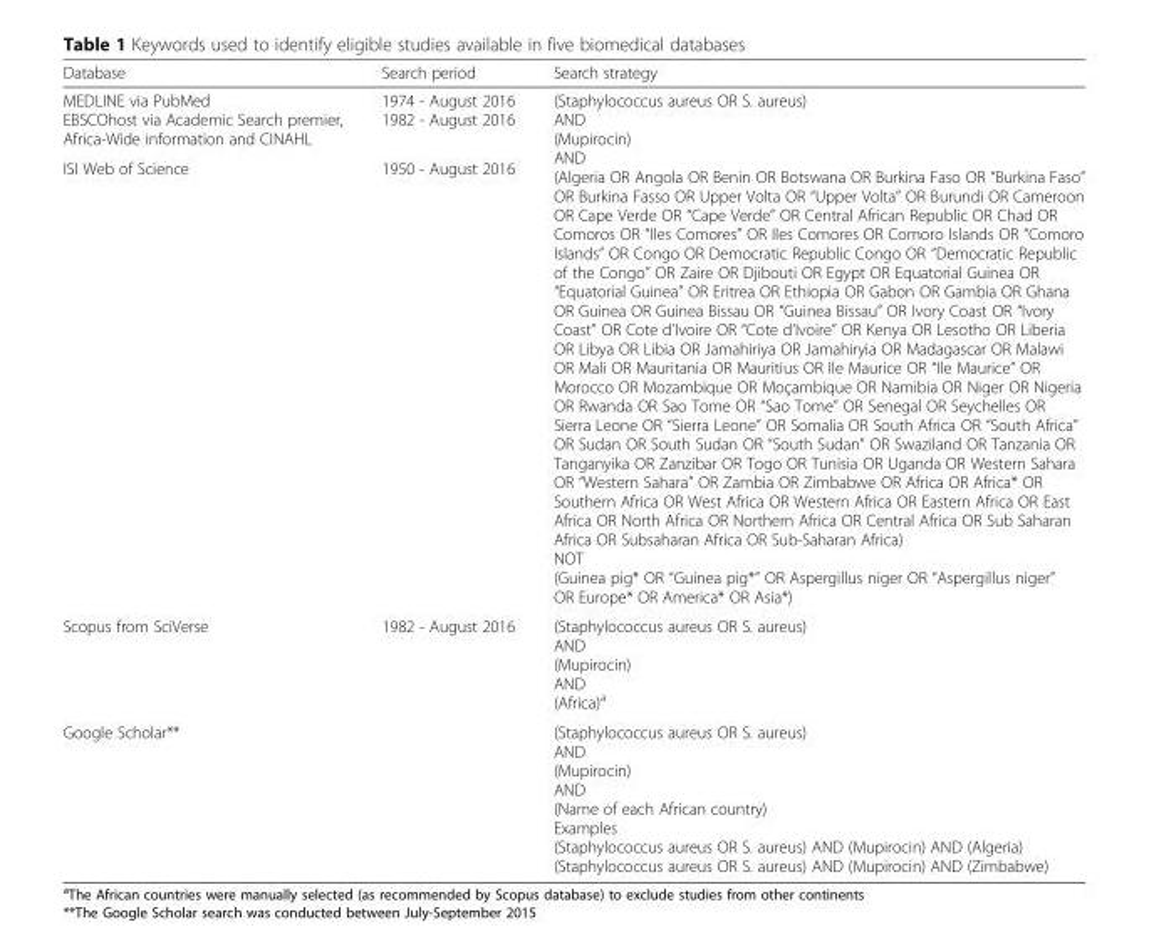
<table><thead><tr><td>Database</td><td>Search period</td><td>Search strategy</td></tr></thead><tbody><tr><td>MEDLINE via PubMed EBSCOhost via Academic Search premier, Africa-Wide information and CINAHL</td><td>1974 - August 2016 1982 - August 2016</td><td rowspan="2">(Staphylococcus aureus OR S. aureus) AND (Mupirocin) AND (Algeria OR Angola OR Benin OR Botswana OR Burkina Faso OR “Burkina Faso” OR Burkina Fasso OR Upper Volta OR “Upper Volta” OR Burundi OR Cameroon OR Cape Verde OR “Cape Verde” OR Central African Republic OR Chad OR Comoros OR “Iles Comores” OR Iles Comores OR Comoro Islands OR “Comoro Islands” OR Congo OR Democratic Republic Congo OR “Democratic Republic of the Congo” OR Zaire OR Djibouti OR Egypt OR Equatorial Guinea OR “Equatorial Guinea” OR Eritrea OR Ethiopia OR Gabon OR Gambia OR Ghana OR Guinea OR Guinea Bissau OR “Guinea Bissau” OR Ivory Coast OR “Ivory Coast” OR Cote d’Ivoire OR “Cote d’Ivoire” OR Kenya OR Lesotho OR Liberia OR Libya OR Libia OR Jamahiriya OR Jamahiryia OR Madagascar OR Malawi OR Mali OR Mauritania OR Mauritius OR Ile Maurice OR “Ile Maurice” OR Morocco OR Mozambique OR Moçambique OR Namibia OR Niger OR Nigeria OR Rwanda OR Sao Tome OR “Sao Tome” OR Senegal OR Seychelles OR Sierra Leone OR “Sierra Leone” OR Somalia OR South Africa OR “South Africa” OR Sudan OR South Sudan OR “South Sudan” OR Swaziland OR Tanzania OR Tanganyika OR Zanzibar OR Togo OR Tunisia OR Uganda OR Western Sahara OR “Western Sahara” OR Zambia OR Zimbabwe OR Africa OR Africa* OR Southern Africa OR West Africa OR Western Africa OR Eastern Africa OR East Africa OR North Africa OR Northern Africa OR Central Africa OR Sub Saharan Africa OR Subsaharan Africa OR Sub-Saharan Africa) NOT (Guinea pig* OR “Guinea pig*” OR Aspergillus niger OR “Aspergillus niger” OR Europe* OR America* OR Asia*)</td></tr><tr><td>ISI Web of Science</td><td>1950 - August 2016</td></tr><tr><td>Scopus from SciVerse</td><td>1982 - August 2016</td><td>(Staphylococcus aureus OR S. aureus) AND (Mupirocin) AND (Africa)<sup>a</sup></td></tr><tr><td>Google Scholar**</td><td></td><td>(Staphylococcus aureus OR S. aureus) AND (Mupirocin) AND (Name of each African country) Examples (Staphylococcus aureus OR S. aureus) AND (Mupirocin) AND (Algeria) (Staphylococcus aureus OR S. aureus) AND (Mupirocin) AND (Zimbabwe)</td></tr></tbody></table>